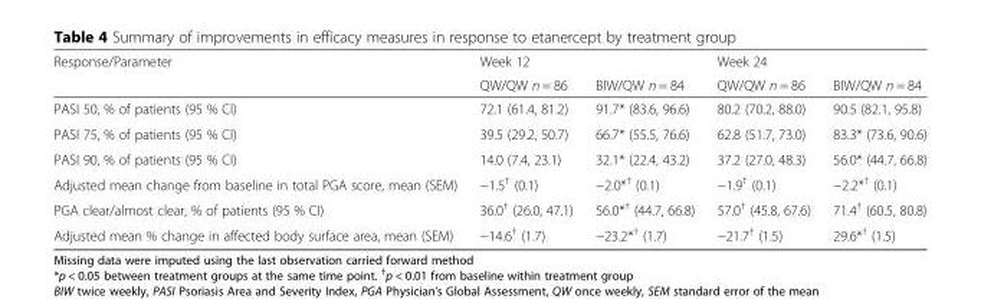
<table><thead><tr><td rowspan="2">Response/Parameter</td><td colspan="2">Week 12</td><td colspan="2">Week 24</td></tr><tr><td>QW/QW n = 86</td><td>BIW/QW n = 84</td><td>QW/QW n = 86</td><td>BIW/QW n = 84</td></tr></thead><tbody><tr><td>PASI 50, % of patients (95 % CI)</td><td>72.1 (61.4, 81.2)</td><td>91.7* (83.6, 96.6)</td><td>80.2 (70.2, 88.0)</td><td>90.5 (82.1, 95.8)</td></tr><tr><td>PASI 75, % of patients (95 % CI)</td><td>39.5 (29.2, 50.7)</td><td>66.7* (55.5, 76.6)</td><td>62.8 (51.7, 73.0)</td><td>83.3* (73.6, 90.6)</td></tr><tr><td>PASI 90, % of patients (95 % CI)</td><td>14.0 (7.4, 23.1)</td><td>32.1* (22.4, 43.2)</td><td>37.2 (27.0, 48.3)</td><td>56.0* (44.7, 66.8)</td></tr><tr><td>Adjusted mean change from baseline in total PGA score, mean (SEM)</td><td>−1.5<sup>†</sup> (0.1)</td><td>−2.0*<sup>†</sup> (0.1)</td><td>−1.9<sup>†</sup> (0.1)</td><td>−2.2*<sup>†</sup> (0.1)</td></tr><tr><td>PGA clear/almost clear, % of patients (95 % CI)</td><td>36.0<sup>†</sup> (26.0, 47.1)</td><td>56.0*<sup>†</sup> (44.7, 66.8)</td><td>57.0<sup>†</sup> (45.8, 67.6)</td><td>71.4<sup>†</sup> (60.5, 80.8)</td></tr><tr><td>Adjusted mean % change in affected body surface area, mean (SEM)</td><td>−14.6<sup>†</sup> (1.7)</td><td>−23.2*<sup>†</sup> (1.7)</td><td>−21.7<sup>†</sup> (1.5)</td><td>29.6*<sup>†</sup> (1.5)</td></tr></tbody></table>